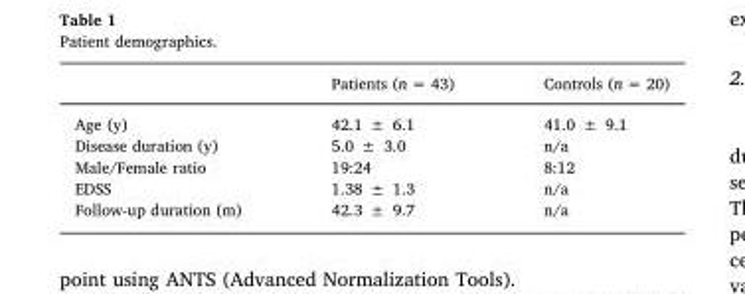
<table><thead><tr><td></td><td>Patients (n = 43)</td><td>Controls (n = 20)</td></tr></thead><tbody><tr><td>Age (y)</td><td>42.1 ± 6.1</td><td>41.0 ± 9.1</td></tr><tr><td>Disease duration (y)</td><td>5.0 ± 3.0</td><td>n/a</td></tr><tr><td>Male/Female ratio</td><td>19:24</td><td>8:12</td></tr><tr><td>EDSS</td><td>1.38 ± 1.3</td><td>n/a</td></tr><tr><td>Follow-up duration (m)</td><td>42.3 ± 9.7</td><td>n/a</td></tr></tbody></table>